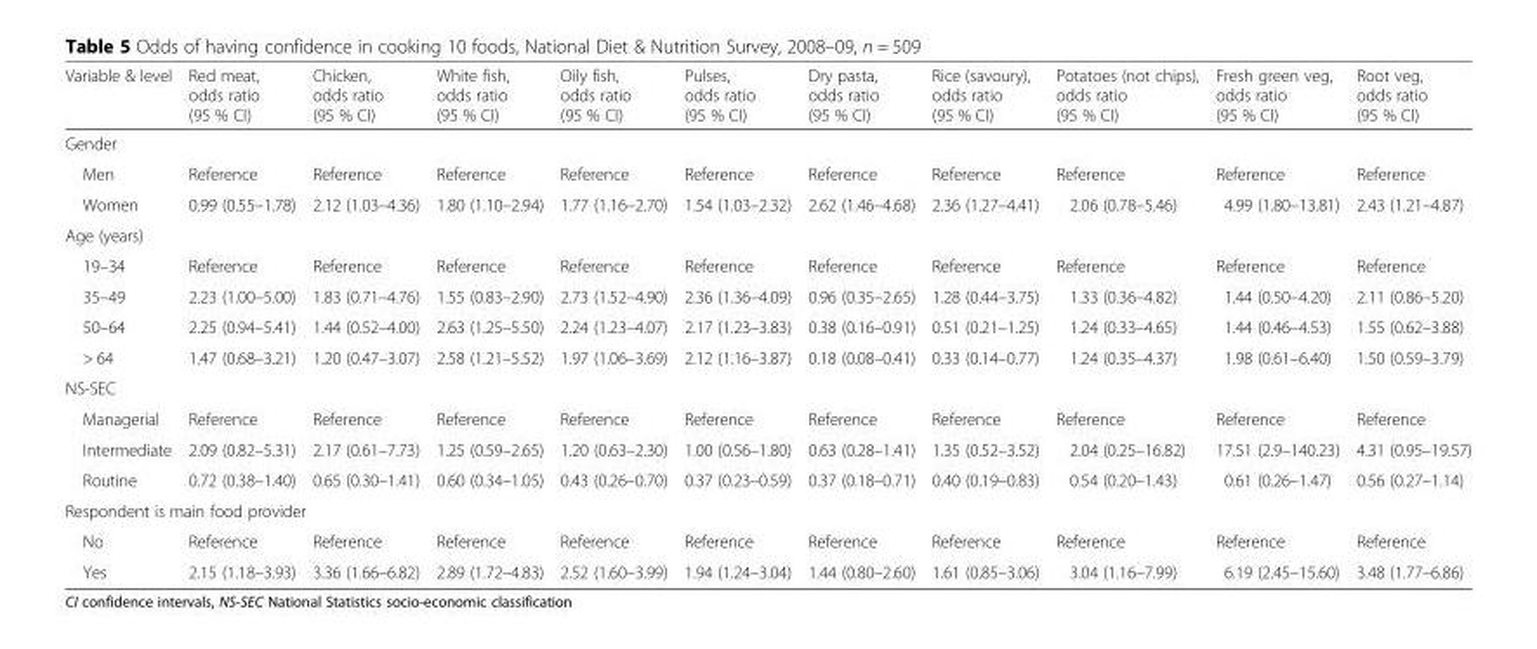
<table><thead><tr><td>Variable &amp; level</td><td>Red meat, odds ratio (95 % CI)</td><td>Chicken, odds ratio (95 % CI)</td><td>White fish, odds ratio (95 % CI)</td><td>Oily fish, odds ratio (95 % CI)</td><td>Pulses, odds ratio (95 % CI)</td><td>Dry pasta, odds ratio (95 % CI)</td><td>Rice (savoury), odds ratio (95 % CI)</td><td>Potatoes (not chips), odds ratio (95 % CI)</td><td>Fresh green veg, odds ratio (95 % CI)</td><td>Root veg, odds ratio (95 % CI)</td></tr></thead><tbody><tr><td colspan="11">Gender</td></tr><tr><td>Men</td><td>Reference</td><td>Reference</td><td>Reference</td><td>Reference</td><td>Reference</td><td>Reference</td><td>Reference</td><td>Reference</td><td>Reference</td><td>Reference</td></tr><tr><td>Women</td><td>0.99 (0.55–1.78)</td><td>2.12 (1.03–4.36)</td><td>1.80 (1.10–2.94)</td><td>1.77 (1.16–2.70)</td><td>1.54 (1.03–2.32)</td><td>2.62 (1.46–4.68)</td><td>2.36 (1.27–4.41)</td><td>2.06 (0.78–5.46)</td><td>4.99 (1.80–13.81)</td><td>2.43 (1.21–4.87)</td></tr><tr><td colspan="11">Age (years)</td></tr><tr><td>19–34</td><td>Reference</td><td>Reference</td><td>Reference</td><td>Reference</td><td>Reference</td><td>Reference</td><td>Reference</td><td>Reference</td><td>Reference</td><td>Reference</td></tr><tr><td>35–49</td><td>2.23 (1.00–5.00)</td><td>1.83 (0.71–4.76)</td><td>1.55 (0.83–2.90)</td><td>2.73 (1.52–4.90)</td><td>2.36 (1.36–4.09)</td><td>0.96 (0.35–2.65)</td><td>1.28 (0.44–3.75)</td><td>1.33 (0.36–4.82)</td><td>1.44 (0.50–4.20)</td><td>2.11 (0.86–5.20)</td></tr><tr><td>50–64</td><td>2.25 (0.94–5.41)</td><td>1.44 (0.52–4.00)</td><td>2.63 (1.25–5.50)</td><td>2.24 (1.23–4.07)</td><td>2.17 (1.23–3.83)</td><td>0.38 (0.16–0.91)</td><td>0.51 (0.21–1.25)</td><td>1.24 (0.33–4.65)</td><td>1.44 (0.46–4.53)</td><td>1.55 (0.62–3.88)</td></tr><tr><td>&gt; 64</td><td>1.47 (0.68–3.21)</td><td>1.20 (0.47–3.07)</td><td>2.58 (1.21–5.52)</td><td>1.97 (1.06–3.69)</td><td>2.12 (1.16–3.87)</td><td>0.18 (0.08–0.41)</td><td>0.33 (0.14–0.77)</td><td>1.24 (0.35–4.37)</td><td>1.98 (0.61–6.40)</td><td>1.50 (0.59–3.79)</td></tr><tr><td colspan="11">NS-SEC</td></tr><tr><td>Managerial</td><td>Reference</td><td>Reference</td><td>Reference</td><td>Reference</td><td>Reference</td><td>Reference</td><td>Reference</td><td>Reference</td><td>Reference</td><td>Reference</td></tr><tr><td>Intermediate</td><td>2.09 (0.82–5.31)</td><td>2.17 (0.61–7.73)</td><td>1.25 (0.59–2.65)</td><td>1.20 (0.63–2.30)</td><td>1.00 (0.56–1.80)</td><td>0.63 (0.28–1.41)</td><td>1.35 (0.52–3.52)</td><td>2.04 (0.25–16.82)</td><td>17.51 (2.9–140.23)</td><td>4.31 (0.95–19.57)</td></tr><tr><td>Routine</td><td>0.72 (0.38–1.40)</td><td>0.65 (0.30–1.41)</td><td>0.60 (0.34–1.05)</td><td>0.43 (0.26–0.70)</td><td>0.37 (0.23–0.59)</td><td>0.37 (0.18–0.71)</td><td>0.40 (0.19–0.83)</td><td>0.54 (0.20–1.43)</td><td>0.61 (0.26–1.47)</td><td>0.56 (0.27–1.14)</td></tr><tr><td colspan="11">Respondent is main food provider</td></tr><tr><td>No</td><td>Reference</td><td>Reference</td><td>Reference</td><td>Reference</td><td>Reference</td><td>Reference</td><td>Reference</td><td>Reference</td><td>Reference</td><td>Reference</td></tr><tr><td>Yes</td><td>2.15 (1.18–3.93)</td><td>3.36 (1.66–6.82)</td><td>2.89 (1.72–4.83)</td><td>2.52 (1.60–3.99)</td><td>1.94 (1.24–3.04)</td><td>1.44 (0.80–2.60)</td><td>1.61 (0.85–3.06)</td><td>3.04 (1.16–7.99)</td><td>6.19 (2.45–15.60)</td><td>3.48 (1.77–6.86)</td></tr></tbody></table>